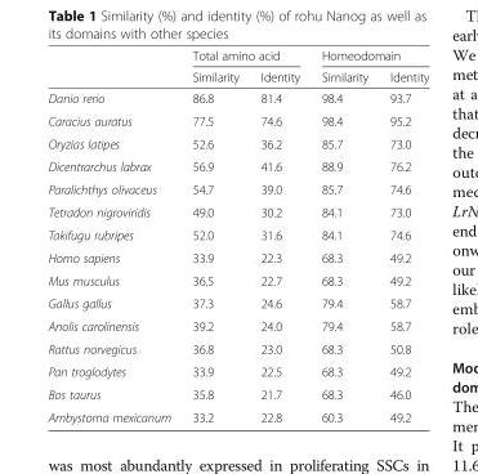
<table><thead><tr><td rowspan="2"></td><td colspan="2">Total amino acid</td><td colspan="2">Homeodomain</td></tr><tr><td>Similarity</td><td>Identity</td><td>Similarity</td><td>Identity</td></tr></thead><tbody><tr><td>Danio rerio</td><td>86.8</td><td>81.4</td><td>98.4</td><td>93.7</td></tr><tr><td>Caracius auratus</td><td>77.5</td><td>74.6</td><td>98.4</td><td>95.2</td></tr><tr><td>Oryzias latipes</td><td>52.6</td><td>36.2</td><td>85.7</td><td>73.0</td></tr><tr><td>Dicentrarchus labrax</td><td>56.9</td><td>41.6</td><td>88.9</td><td>76.2</td></tr><tr><td>Paralichthys olivaceus</td><td>54.7</td><td>39.0</td><td>85.7</td><td>74.6</td></tr><tr><td>Tetradon nigroviridis</td><td>49.0</td><td>30.2</td><td>84.1</td><td>73.0</td></tr><tr><td>Takifugu rubripes</td><td>52.0</td><td>31.6</td><td>84.1</td><td>74.6</td></tr><tr><td>Homo sapiens</td><td>33.9</td><td>22.3</td><td>68.3</td><td>49.2</td></tr><tr><td>Mus musculus</td><td>36.5</td><td>22.7</td><td>68.3</td><td>49.2</td></tr><tr><td>Gallus gallus</td><td>37.3</td><td>24.6</td><td>79.4</td><td>58.7</td></tr><tr><td>Anolis carolinensis</td><td>39.2</td><td>24.0</td><td>79.4</td><td>58.7</td></tr><tr><td>Rattus norvegicus</td><td>36.8</td><td>23.0</td><td>68.3</td><td>50.8</td></tr><tr><td>Pan troglodytes</td><td>33.9</td><td>22.5</td><td>68.3</td><td>49.2</td></tr><tr><td>Bos taurus</td><td>35.8</td><td>21.7</td><td>68.3</td><td>46.0</td></tr><tr><td>Ambystoma mexicanum</td><td>33.2</td><td>22.8</td><td>60.3</td><td>49.2</td></tr></tbody></table>